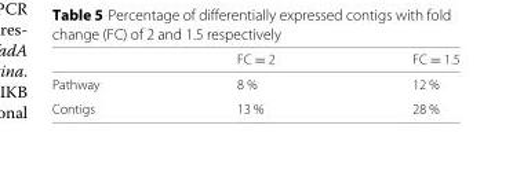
<table><thead><tr><td></td><td>FC = 2</td><td>FC = 1.5</td></tr></thead><tbody><tr><td>Pathway</td><td>8 %</td><td>12 %</td></tr><tr><td>Contigs</td><td>13 %</td><td>28 %</td></tr></tbody></table>